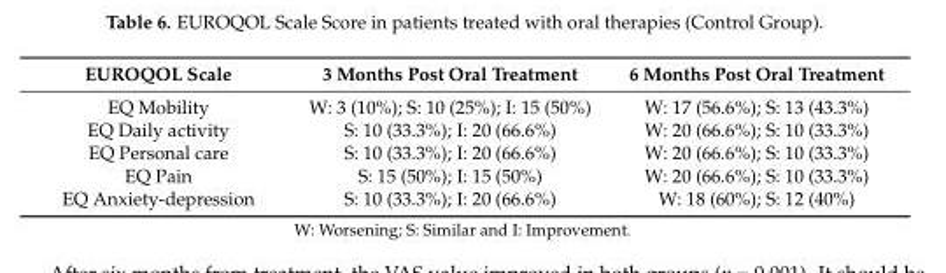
<table><thead><tr><td>EUROQOL Scale</td><td>3 Months Post Oral Treatment</td><td>6 Months Post Oral Treatment</td></tr></thead><tbody><tr><td>EQ Mobility</td><td>W: 3 (10%); S: 10 (25%); I: 15 (50%)</td><td>W: 17 (56.6%); S: 13 (43.3%)</td></tr><tr><td>EQ Daily activity</td><td>S: 10 (33.3%); I: 20 (66.6%)</td><td>W: 20 (66.6%); S: 10 (33.3%)</td></tr><tr><td>EQ Personal care</td><td>S: 10 (33.3%); I: 20 (66.6%)</td><td>W: 20 (66.6%); S: 10 (33.3%)</td></tr><tr><td>EQ Pain</td><td>S: 15 (50%); I: 15 (50%)</td><td>W: 20 (66.6%); S: 10 (33.3%)</td></tr><tr><td>EQ Anxiety-depression</td><td>S: 10 (33.3%); I: 20 (66.6%)</td><td>W: 18 (60%); S: 12 (40%)</td></tr></tbody></table>